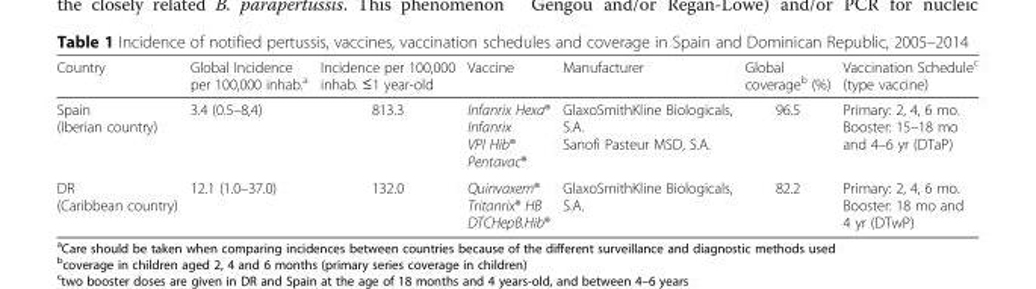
<table><thead><tr><td>Country</td><td>Global Incidence per 100,000 inhab.<sup>a</sup></td><td>Incidence per 100,000 inhab. ≤1 year-old</td><td>Vaccine</td><td>Manufacturer</td><td>Global coverage<sup>b</sup> (%)</td><td>Vaccination Schedule<sup>c</sup> (type vaccine)</td></tr></thead><tbody><tr><td>Spain (Iberian country)</td><td>3.4 (0.5–8,4)</td><td>813.3</td><td>Infanrix Hexa® Infanrix VPI Hib® Pentavac®</td><td>GlaxoSmithKline Biologicals, S.A. Sanofi Pasteur MSD, S.A.</td><td>96.5</td><td>Primary: 2, 4, 6 mo. Booster: 15–18 mo and 4–6 yr (DTaP)</td></tr><tr><td>DR (Caribbean country)</td><td>12.1 (1.0–37.0)</td><td>132.0</td><td>Quinvaxem® Tritanrix® HB DTCHepB.Hib®</td><td>GlaxoSmithKline Biologicals, S.A.</td><td>82.2</td><td>Primary: 2, 4, 6 mo. Booster: 18 mo and 4 yr (DTwP)</td></tr></tbody></table>